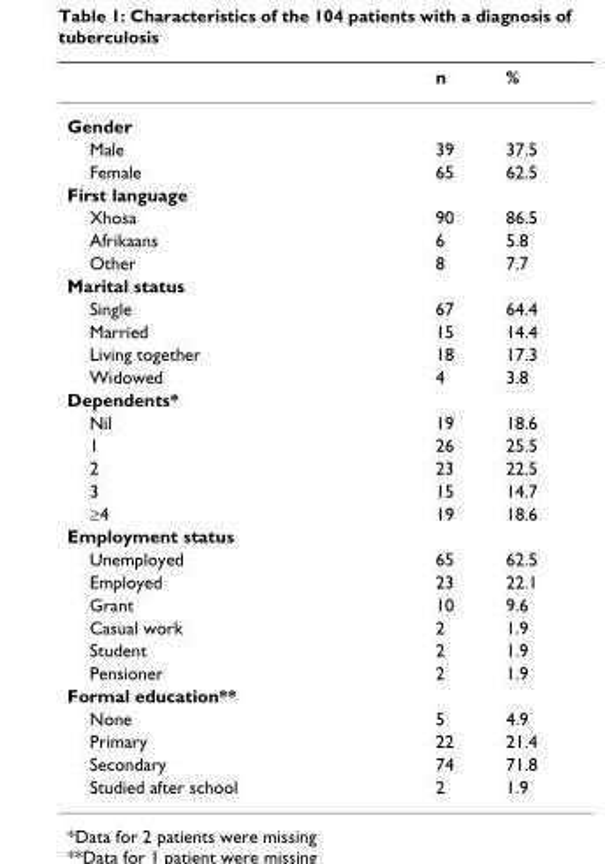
<table><thead><tr><td></td><td>n</td><td>%</td></tr></thead><tbody><tr><td colspan="3">Gender</td></tr><tr><td>Male</td><td>39</td><td>37.5</td></tr><tr><td>Female</td><td>65</td><td>62.5</td></tr><tr><td colspan="3">First language</td></tr><tr><td>Xhosa</td><td>90</td><td>86.5</td></tr><tr><td>Afrikaans</td><td>6</td><td>5.8</td></tr><tr><td>Other</td><td>8</td><td>7.7</td></tr><tr><td colspan="3">Marital status</td></tr><tr><td>Single</td><td>67</td><td>64.4</td></tr><tr><td>Married</td><td>15</td><td>14.4</td></tr><tr><td>Living together</td><td>18</td><td>17.3</td></tr><tr><td>Widowed</td><td>4</td><td>3.8</td></tr><tr><td colspan="3">Dependents*</td></tr><tr><td>Nil</td><td>19</td><td>18.6</td></tr><tr><td>1</td><td>26</td><td>25.5</td></tr><tr><td>2</td><td>23</td><td>22.5</td></tr><tr><td>3</td><td>15</td><td>14.7</td></tr><tr><td>≥4</td><td>19</td><td>18.6</td></tr><tr><td colspan="3">Employment status</td></tr><tr><td>Unemployed</td><td>65</td><td>62.5</td></tr><tr><td>Employed</td><td>23</td><td>22.1</td></tr><tr><td>Grant</td><td>10</td><td>9.6</td></tr><tr><td>Casual work</td><td>2</td><td>1.9</td></tr><tr><td>Student</td><td>2</td><td>1.9</td></tr><tr><td>Pensioner</td><td>2</td><td>1.9</td></tr><tr><td colspan="3">Formal education**</td></tr><tr><td>None</td><td>5</td><td>4.9</td></tr><tr><td>Primary</td><td>22</td><td>21.4</td></tr><tr><td>Secondary</td><td>74</td><td>71.8</td></tr><tr><td>Studied after school</td><td>2</td><td>1.9</td></tr></tbody></table>